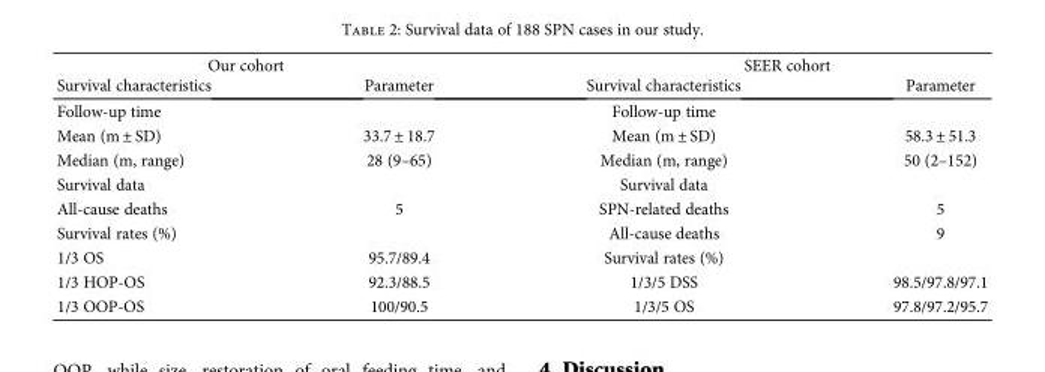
<table><thead><tr><td colspan="2">Our cohort</td><td colspan="2">SEER cohort</td></tr><tr><td>Survival characteristics</td><td>Parameter</td><td>Survival characteristics</td><td>Parameter</td></tr></thead><tbody><tr><td>Follow-up time</td><td></td><td>Follow-up time</td><td></td></tr><tr><td>Mean (m ± SD)</td><td>33.7 ± 18.7</td><td>Mean (m ± SD)</td><td>58.3 ± 51.3</td></tr><tr><td>Median (m, range)</td><td>28 (9–65)</td><td>Median (m, range)</td><td>50 (2–152)</td></tr><tr><td>Survival data</td><td></td><td>Survival data</td><td></td></tr><tr><td>All-cause deaths</td><td>5</td><td>SPN-related deaths</td><td>5</td></tr><tr><td>Survival rates (%)</td><td></td><td>All-cause deaths</td><td>9</td></tr><tr><td>1/3 OS</td><td>95.7/89.4</td><td>Survival rates (%)</td><td></td></tr><tr><td>1/3 HOP-OS</td><td>92.3/88.5</td><td>1/3/5 DSS</td><td>98.5/97.8/97.1</td></tr><tr><td>1/3 OOP-OS</td><td>100/90.5</td><td>1/3/5 OS</td><td>97.8/97.2/95.7</td></tr></tbody></table>